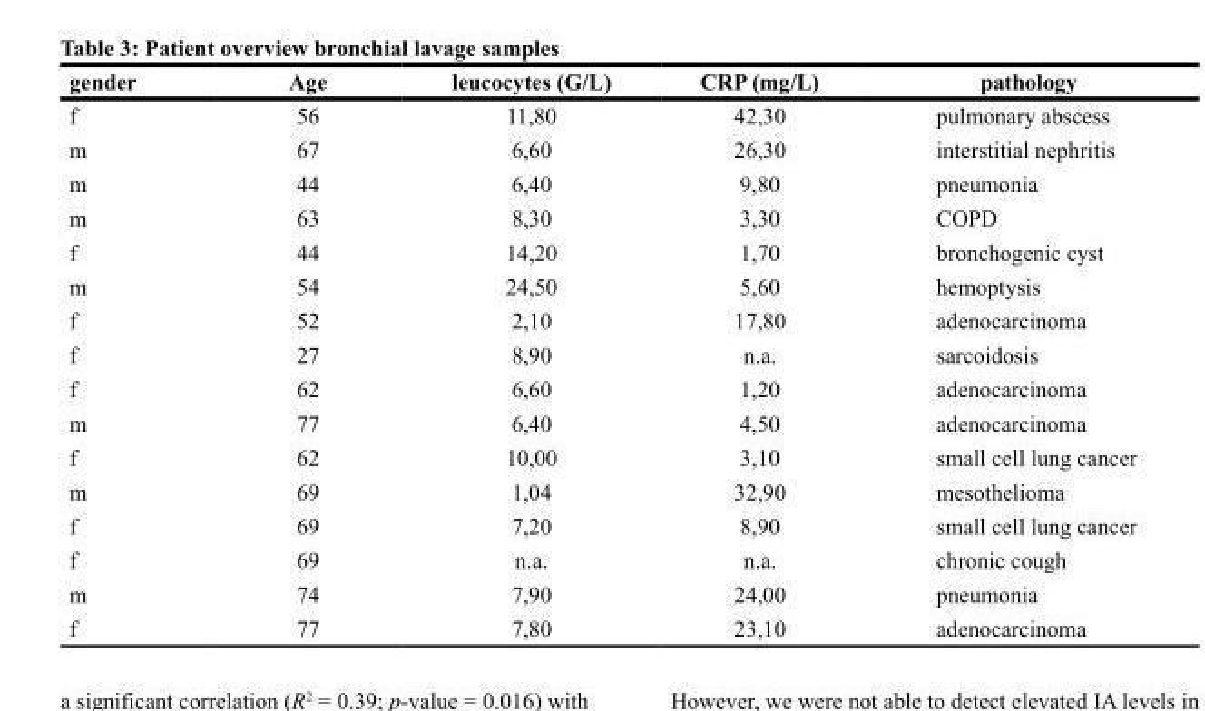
<table><thead><tr><td>gender</td><td>Age</td><td>leucocytes (G/L)</td><td>CRP (mg/L)</td><td>pathology</td></tr></thead><tbody><tr><td>f</td><td>56</td><td>11,80</td><td>42,30</td><td>pulmonary abscess</td></tr><tr><td>m</td><td>67</td><td>6,60</td><td>26,30</td><td>interstitial nephritis</td></tr><tr><td>m</td><td>44</td><td>6,40</td><td>9,80</td><td>pneumonia</td></tr><tr><td>m</td><td>63</td><td>8,30</td><td>3,30</td><td>COPD</td></tr><tr><td>f</td><td>44</td><td>14,20</td><td>1,70</td><td>bronchogenic cyst</td></tr><tr><td>m</td><td>54</td><td>24,50</td><td>5,60</td><td>hemoptysis</td></tr><tr><td>f</td><td>52</td><td>2,10</td><td>17,80</td><td>adenocarcinoma</td></tr><tr><td>f</td><td>27</td><td>8,90</td><td>n.a.</td><td>sarcoidosis</td></tr><tr><td>f</td><td>62</td><td>6,60</td><td>1,20</td><td>adenocarcinoma</td></tr><tr><td>m</td><td>77</td><td>6,40</td><td>4,50</td><td>adenocarcinoma</td></tr><tr><td>f</td><td>62</td><td>10,00</td><td>3,10</td><td>small cell lung cancer</td></tr><tr><td>m</td><td>69</td><td>1,04</td><td>32,90</td><td>mesothelioma</td></tr><tr><td>f</td><td>69</td><td>7,20</td><td>8,90</td><td>small cell lung cancer</td></tr><tr><td>f</td><td>69</td><td>n.a.</td><td>n.a.</td><td>chronic cough</td></tr><tr><td>m</td><td>74</td><td>7,90</td><td>24,00</td><td>pneumonia</td></tr><tr><td>f</td><td>77</td><td>7,80</td><td>23,10</td><td>adenocarcinoma</td></tr></tbody></table>